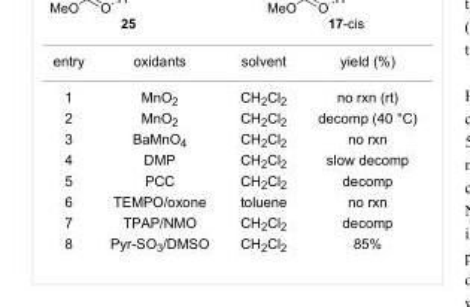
<table><tbody><tr><td>entry</td><td>oxidants</td><td>solvent</td><td>yield (%)</td></tr><tr><td>1</td><td>MnO<sub>2</sub></td><td>CH<sub>2</sub>Cl<sub>2</sub></td><td>no rxn (rt)</td></tr><tr><td>2</td><td>MnO<sub>2</sub></td><td>CH<sub>2</sub>Cl<sub>2</sub></td><td>decomp (40 °C)</td></tr><tr><td>3</td><td>BaMnO<sub>4</sub></td><td>CH<sub>2</sub>Cl<sub>2</sub></td><td>no rxn</td></tr><tr><td>4</td><td>DMP</td><td>CH<sub>2</sub>Cl<sub>2</sub></td><td>slow decomp</td></tr><tr><td>5</td><td>PCC</td><td>CH<sub>2</sub>Cl<sub>2</sub></td><td>decomp</td></tr><tr><td>6</td><td>TEMPO/oxone</td><td>toluene</td><td>no rxn</td></tr><tr><td>7</td><td>TPAP/NMO</td><td>CH<sub>2</sub>Cl<sub>2</sub></td><td>decomp</td></tr><tr><td>8</td><td>Pyr-SO<sub>3</sub>/DMSO</td><td>CH<sub>2</sub>Cl<sub>2</sub></td><td>85%</td></tr></tbody></table>